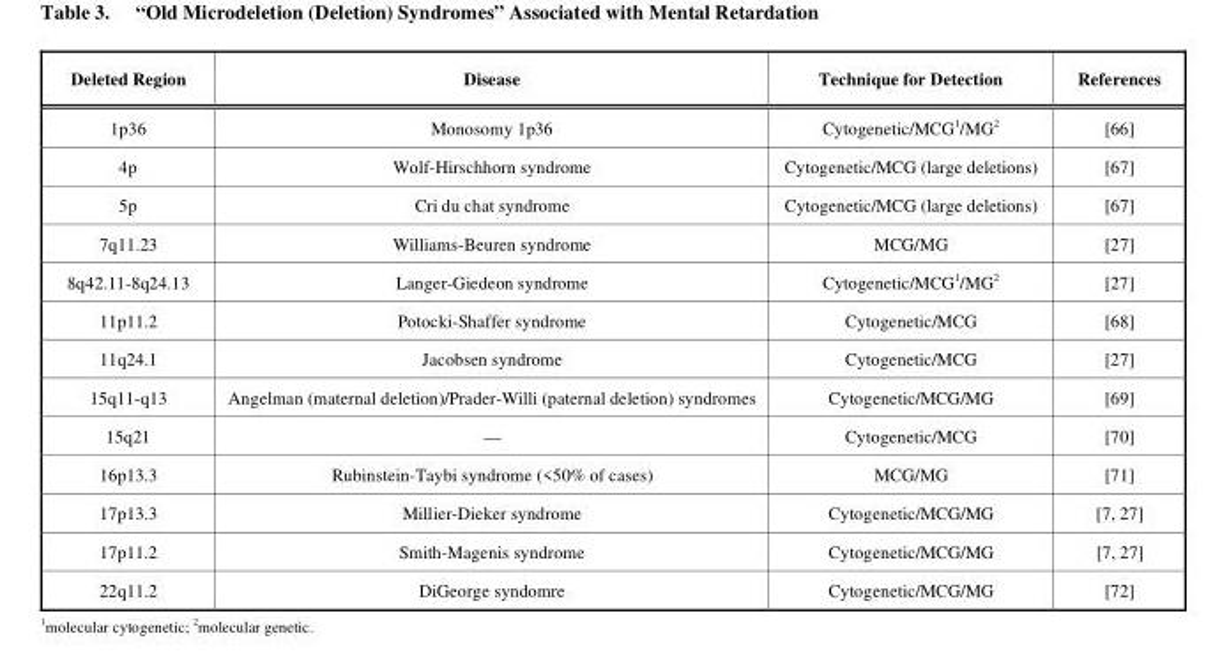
<table><thead><tr><td>Deleted Region</td><td>Disease</td><td>Technique for Detection</td><td>References</td></tr></thead><tbody><tr><td>1p36</td><td>Monosomy 1p36</td><td>Cytogenetic/MCG<sup>1</sup>/MG<sup>2</sup></td><td>[66]</td></tr><tr><td>4p</td><td>Wolf-Hirschhorn syndrome</td><td>Cytogenetic/MCG (large deletions)</td><td>[67]</td></tr><tr><td>5p</td><td>Cri du chat syndrome</td><td>Cytogenetic/MCG (large deletions)</td><td>[67]</td></tr><tr><td>7q11.23</td><td>Williams-Beuren syndrome</td><td>MCG/MG</td><td>[27]</td></tr><tr><td>8q42.11-8q24.13</td><td>Langer-Giedeon syndrome</td><td>Cytogenetic/MCG<sup>1</sup>/MG<sup>2</sup></td><td>[27]</td></tr><tr><td>11p11.2</td><td>Potocki-Shaffer syndrome</td><td>Cytogenetic/MCG</td><td>[68]</td></tr><tr><td>11q24.1</td><td>Jacobsen syndrome</td><td>Cytogenetic/MCG</td><td>[27]</td></tr><tr><td>15q11-q13</td><td>Angelman (maternal deletion)/Prader-Willi (paternal deletion) syndromes</td><td>Cytogenetic/MCG/MG</td><td>[69]</td></tr><tr><td>15q21</td><td>—</td><td>Cytogenetic/MCG</td><td>[70]</td></tr><tr><td>16p13.3</td><td>Rubinstein-Taybi syndrome (&lt;50% of cases)</td><td>MCG/MG</td><td>[71]</td></tr><tr><td>17p13.3</td><td>Millier-Dieker syndrome</td><td>Cytogenetic/MCG/MG</td><td>[7, 27]</td></tr><tr><td>17p11.2</td><td>Smith-Magenis syndrome</td><td>Cytogenetic/MCG/MG</td><td>[7, 27]</td></tr><tr><td>22q11.2</td><td>DiGeorge syndomre</td><td>Cytogenetic/MCG/MG</td><td>[72]</td></tr></tbody></table>